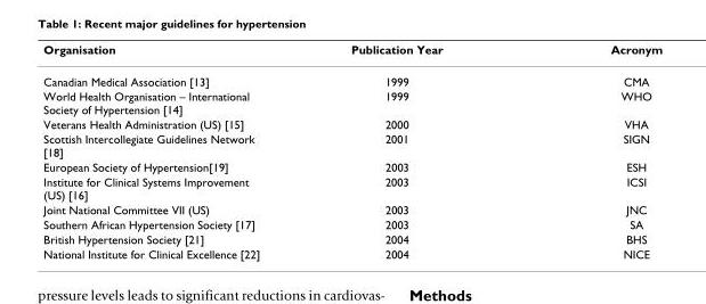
<table><thead><tr><td>Organisation</td><td>Publication Year</td><td>Acronym</td></tr></thead><tbody><tr><td>Canadian Medical Association [13]</td><td>1999</td><td>CMA</td></tr><tr><td>World Health Organisation – International Society of Hypertension [14]</td><td>1999</td><td>WHO</td></tr><tr><td>Veterans Health Administration (US) [15]</td><td>2000</td><td>VHA</td></tr><tr><td>Scottish Intercollegiate Guidelines Network [18]</td><td>2001</td><td>SIGN</td></tr><tr><td>European Society of Hypertension[19]</td><td>2003</td><td>ESH</td></tr><tr><td>Institute for Clinical Systems Improvement (US) [16]</td><td>2003</td><td>ICSI</td></tr><tr><td>Joint National Committee VII (US)</td><td>2003</td><td>JNC</td></tr><tr><td>Southern African Hypertension Society [17]</td><td>2003</td><td>SA</td></tr><tr><td>British Hypertension Society [21]</td><td>2004</td><td>BHS</td></tr><tr><td>National Institute for Clinical Excellence [22]</td><td>2004</td><td>NICE</td></tr></tbody></table>